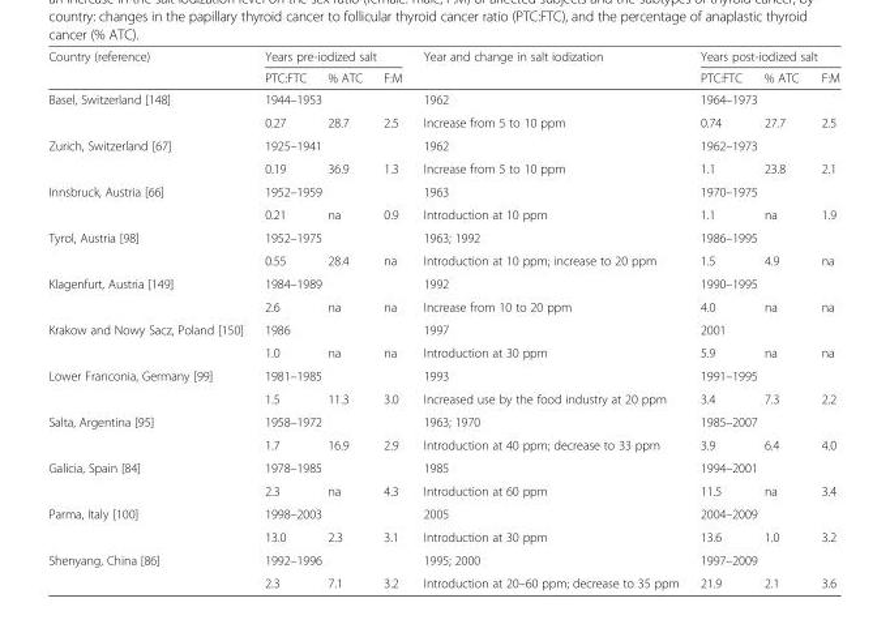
<table><thead><tr><td rowspan="2">Country (reference)</td><td colspan="3">Years pre-iodized salt</td><td rowspan="2">Year and change in salt iodization</td><td colspan="3">Years post-iodized salt</td></tr><tr><td>PTC:FTC</td><td>% ATC</td><td>F:M</td><td>PTC:FTC</td><td>% ATC</td><td>F:M</td></tr></thead><tbody><tr><td rowspan="2">Basel, Switzerland [148]</td><td colspan="3">1944–1953</td><td>1962</td><td colspan="3">1964–1973</td></tr><tr><td>0.27</td><td>28.7</td><td>2.5</td><td>Increase from 5 to 10 ppm</td><td>0.74</td><td>27.7</td><td>2.5</td></tr><tr><td rowspan="2">Zurich, Switzerland [67]</td><td colspan="3">1925–1941</td><td>1962</td><td colspan="3">1962–1973</td></tr><tr><td>0.19</td><td>36.9</td><td>1.3</td><td>Increase from 5 to 10 ppm</td><td>1.1</td><td>23.8</td><td>2.1</td></tr><tr><td rowspan="2">Innsbruck, Austria [66]</td><td colspan="3">1952–1959</td><td>1963</td><td colspan="3">1970–1975</td></tr><tr><td>0.21</td><td>na</td><td>0.9</td><td>Introduction at 10 ppm</td><td>1.1</td><td>na</td><td>1.9</td></tr><tr><td rowspan="2">Tyrol, Austria [98]</td><td colspan="3">1952–1975</td><td>1963; 1992</td><td colspan="3">1986–1995</td></tr><tr><td>0.55</td><td>28.4</td><td>na</td><td>Introduction at 10 ppm; increase to 20 ppm</td><td>1.5</td><td>4.9</td><td>na</td></tr><tr><td rowspan="2">Klagenfurt, Austria [149]</td><td colspan="3">1984–1989</td><td>1992</td><td colspan="3">1990–1995</td></tr><tr><td>2.6</td><td>na</td><td>na</td><td>Increase from 10 to 20 ppm</td><td>4.0</td><td>na</td><td>na</td></tr><tr><td rowspan="2">Krakow and Nowy Sacz, Poland [150]</td><td colspan="3">1986</td><td>1997</td><td colspan="3">2001</td></tr><tr><td>1.0</td><td>na</td><td>na</td><td>Introduction at 30 ppm</td><td>5.9</td><td>na</td><td>na</td></tr><tr><td rowspan="2">Lower Franconia, Germany [99]</td><td colspan="3">1981–1985</td><td>1993</td><td colspan="3">1991–1995</td></tr><tr><td>1.5</td><td>11.3</td><td>3.0</td><td>Increased use by the food industry at 20 ppm</td><td>3.4</td><td>7.3</td><td>2.2</td></tr><tr><td rowspan="2">Salta, Argentina [95]</td><td colspan="3">1958–1972</td><td>1963; 1970</td><td colspan="3">1985–2007</td></tr><tr><td>1.7</td><td>16.9</td><td>2.9</td><td>Introduction at 40 ppm; decrease to 33 ppm</td><td>3.9</td><td>6.4</td><td>4.0</td></tr><tr><td rowspan="2">Galicia, Spain [84]</td><td colspan="3">1978–1985</td><td>1985</td><td colspan="3">1994–2001</td></tr><tr><td>2.3</td><td>na</td><td>4.3</td><td>Introduction at 60 ppm</td><td>11.5</td><td>na</td><td>3.4</td></tr><tr><td rowspan="2">Parma, Italy [100]</td><td colspan="3">1998–2003</td><td>2005</td><td colspan="3">2004–2009</td></tr><tr><td>13.0</td><td>2.3</td><td>3.1</td><td>Introduction at 30 ppm</td><td>13.6</td><td>1.0</td><td>3.2</td></tr><tr><td rowspan="2">Shenyang, China [86]</td><td colspan="3">1992–1996</td><td>1995; 2000</td><td colspan="3">1997–2009</td></tr><tr><td>2.3</td><td>7.1</td><td>3.2</td><td>Introduction at 20–60 ppm; decrease to 35 ppm</td><td>21.9</td><td>2.1</td><td>3.6</td></tr></tbody></table>